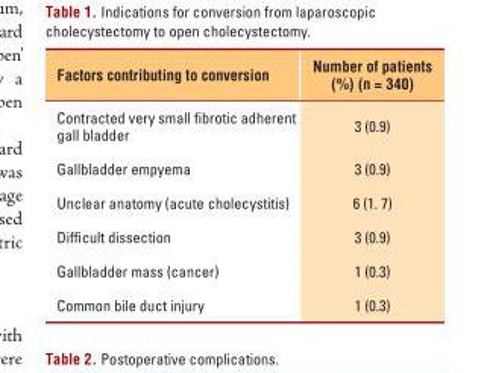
<table><thead><tr><td>Factors contributing to conversion</td><td>Number of patients (%) (n = 340)</td></tr></thead><tbody><tr><td>Contracted very small fibrotic adherent gall bladder</td><td>3 (0.9)</td></tr><tr><td>Gallbladder empyema</td><td>3 (0.9)</td></tr><tr><td>Unclear anatomy (acute cholecystitis)</td><td>6 (1. 7)</td></tr><tr><td>Difficult dissection</td><td>3 (0.9)</td></tr><tr><td>Gallbladder mass (cancer)</td><td>1 (0.3)</td></tr><tr><td>Common bile duct injury</td><td>1 (0.3)</td></tr></tbody></table>